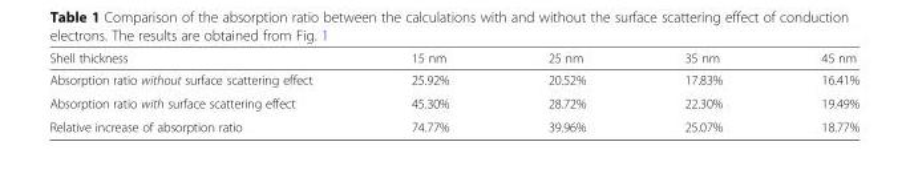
<table><thead><tr><td>Shell thickness</td><td>15 nm</td><td>25 nm</td><td>35 nm</td><td>45 nm</td></tr></thead><tbody><tr><td>Absorption ratio without surface scattering effect</td><td>25.92%</td><td>20.52%</td><td>17.83%</td><td>16.41%</td></tr><tr><td>Absorption ratio with surface scattering effect</td><td>45.30%</td><td>28.72%</td><td>22.30%</td><td>19.49%</td></tr><tr><td>Relative increase of absorption ratio</td><td>74.77%</td><td>39.96%</td><td>25.07%</td><td>18.77%</td></tr></tbody></table>